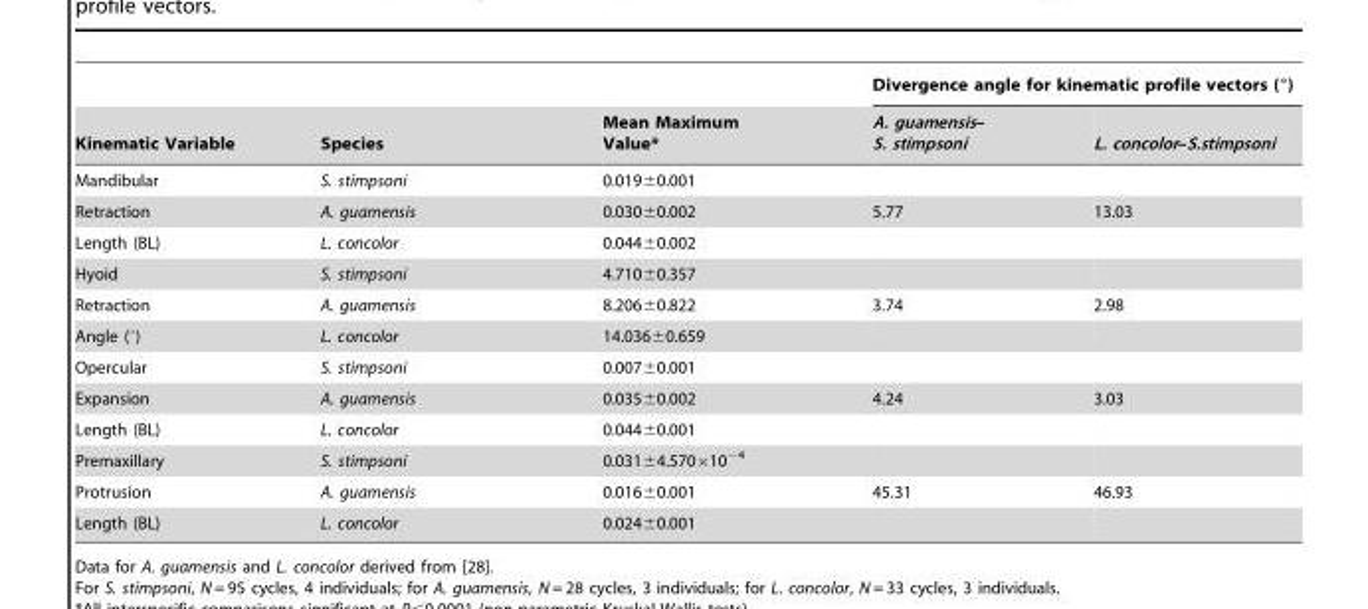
<table><thead><tr><td rowspan="2">Kinematic Variable</td><td rowspan="2">Species</td><td rowspan="2">Mean Maximum Value*</td><td colspan="2">Divergence angle for kinematic profile vectors (°)</td></tr><tr><td>A. guamensis– S. stimpsoni</td><td>L. concolor–S.stimpsoni</td></tr></thead><tbody><tr><td>Mandibular</td><td>S. stimpsoni</td><td>0.019±0.001</td><td></td><td></td></tr><tr><td>Retraction</td><td>A. guamensis</td><td>0.030±0.002</td><td>5.77</td><td>13.03</td></tr><tr><td>Length (BL)</td><td>L. concolor</td><td>0.044±0.002</td><td></td><td></td></tr><tr><td>Hyoid</td><td>S. stimpsoni</td><td>4.710±0.357</td><td></td><td></td></tr><tr><td>Retraction</td><td>A. guamensis</td><td>8.206±0.822</td><td>3.74</td><td>2.98</td></tr><tr><td>Angle (°)</td><td>L. concolor</td><td>14.036±0.659</td><td></td><td></td></tr><tr><td>Opercular</td><td>S. stimpsoni</td><td>0.007±0.001</td><td></td><td></td></tr><tr><td>Expansion</td><td>A. guamensis</td><td>0.035±0.002</td><td>4.24</td><td>3.03</td></tr><tr><td>Length (BL)</td><td>L. concolor</td><td>0.044±0.001</td><td></td><td></td></tr><tr><td>Premaxillary</td><td>S. stimpsoni</td><td>0.031±4.570×10<sup>−4</sup></td><td></td><td></td></tr><tr><td>Protrusion</td><td>A. guamensis</td><td>0.016±0.001</td><td>45.31</td><td>46.93</td></tr><tr><td>Length (BL)</td><td>L. concolor</td><td>0.024±0.001</td><td></td><td></td></tr></tbody></table>